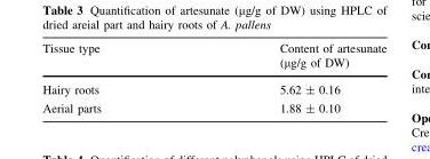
<table><thead><tr><td>Tissue type</td><td>Content of artesunate (μg/g of DW)</td></tr></thead><tbody><tr><td>Hairy roots</td><td>5.62 ± 0.16</td></tr><tr><td>Aerial parts</td><td>1.88 ± 0.10</td></tr></tbody></table>